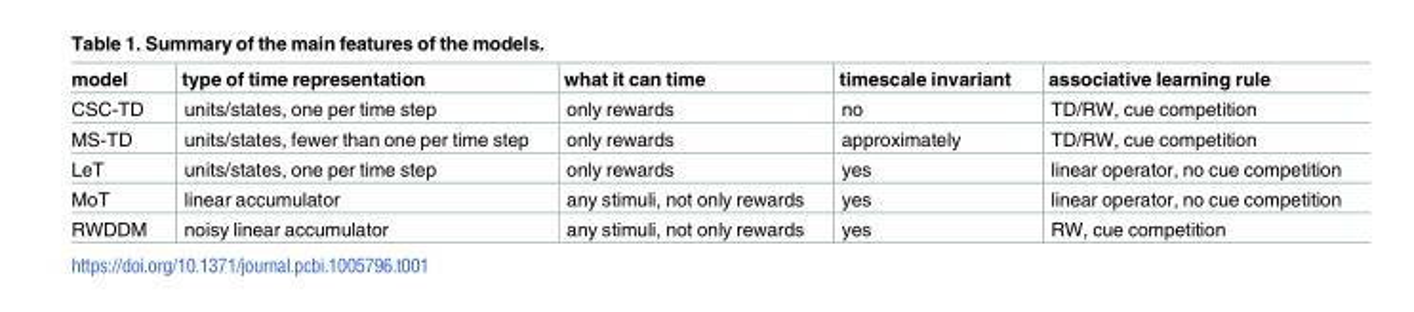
<table><thead><tr><td>model</td><td>type of time representation</td><td>what it can time</td><td>timescale invariant</td><td>associative learning rule</td></tr></thead><tbody><tr><td>CSC-TD</td><td>units/states, one per time step</td><td>only rewards</td><td>no</td><td>TD/RW, cue competition</td></tr><tr><td>MS-TD</td><td>units/states, fewer than one per time step</td><td>only rewards</td><td>approximately</td><td>TD/RW, cue competition</td></tr><tr><td>LeT</td><td>units/states, one per time step</td><td>only rewards</td><td>yes</td><td>linear operator, no cue competition</td></tr><tr><td>MoT</td><td>linear accumulator</td><td>any stimuli, not only rewards</td><td>yes</td><td>linear operator, no cue competition</td></tr><tr><td>RWDDM</td><td>noisy linear accumulator</td><td>any stimuli, not only rewards</td><td>yes</td><td>RW, cue competition</td></tr></tbody></table>